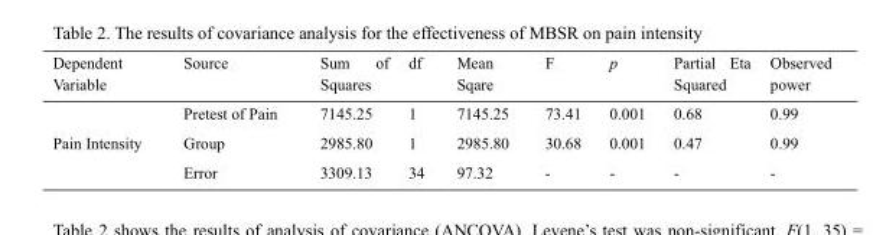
<table><thead><tr><td>Dependent Variable</td><td>Source</td><td>Sum of Squares</td><td>df</td><td>Mean Sqare</td><td>F</td><td>p</td><td>Partial Eta Squared</td><td>Observed power</td></tr></thead><tbody><tr><td></td><td>Pretest of Pain</td><td>7145.25</td><td>1</td><td>7145.25</td><td>73.41</td><td>0.001</td><td>0.68</td><td>0.99</td></tr><tr><td rowspan="2">Pain Intensity</td><td>Group</td><td>2985.80</td><td>1</td><td>2985.80</td><td>30.68</td><td>0.001</td><td>0.47</td><td>0.99</td></tr><tr><td>Error</td><td>3309.13</td><td>34</td><td>97.32</td><td>-</td><td>-</td><td>-</td><td>-</td></tr></tbody></table>